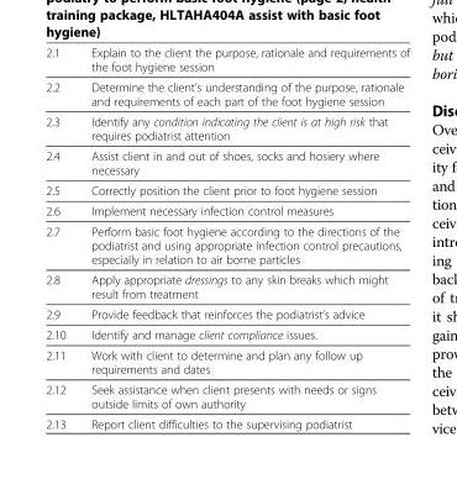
<table><tbody><tr><td>2.1</td><td>Explain to the client the purpose, rationale and requirements of the foot hygiene session</td></tr><tr><td>2.2</td><td>Determine the client’s understanding of the purpose, rationale and requirements of each part of the foot hygiene session</td></tr><tr><td>2.3</td><td>Identify any condition indicating the client is at high risk that requires podiatrist attention</td></tr><tr><td>2.4</td><td>Assist client in and out of shoes, socks and hosiery where necessary</td></tr><tr><td>2.5</td><td>Correctly position the client prior to foot hygiene session</td></tr><tr><td>2.6</td><td>Implement necessary infection control measures</td></tr><tr><td>2.7</td><td>Perform basic foot hygiene according to the directions of the podiatrist and using appropriate infection control precautions, especially in relation to air borne particles</td></tr><tr><td>2.8</td><td>Apply appropriate dressings to any skin breaks which might result from treatment</td></tr><tr><td>2.9</td><td>Provide feedback that reinforces the podiatrist’s advice</td></tr><tr><td>2.10</td><td>Identify and manage client compliance issues.</td></tr><tr><td>2.11</td><td>Work with client to determine and plan any follow up requirements and dates</td></tr><tr><td>2.12</td><td>Seek assistance when client presents with needs or signs outside limits of own authority</td></tr><tr><td>2.13</td><td>Report client difficulties to the supervising podiatrist</td></tr></tbody></table>